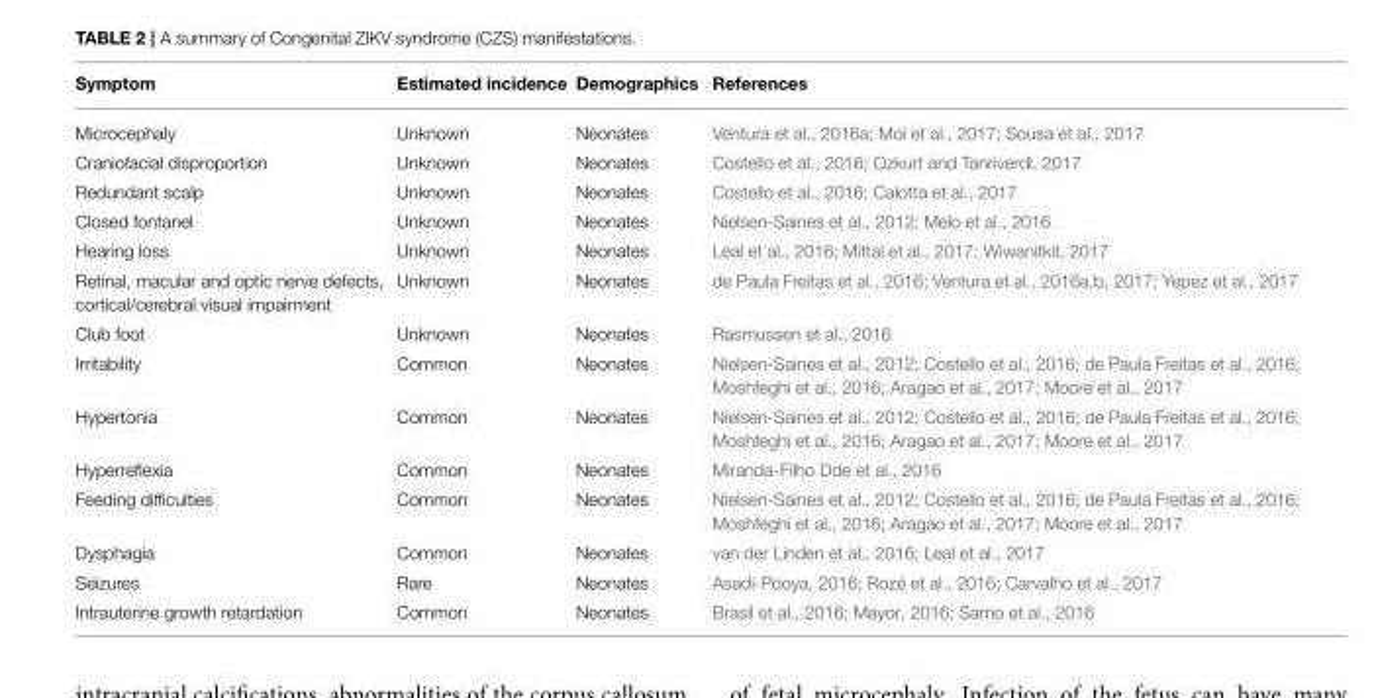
<table><thead><tr><td>Symptom</td><td>Estimated incidence</td><td>Demographics</td><td>References</td></tr></thead><tbody><tr><td>Microcephaly</td><td>Unknown</td><td>Neonates</td><td>Ventura et al., 2016a; Moi et al., 2017; Sousa et al., 2017</td></tr><tr><td>Craniofacial disproportion</td><td>Unknown</td><td>Neonates</td><td>Costello et al., 2016; Ozkurt and Tanriverdi, 2017</td></tr><tr><td>Redundant scalp</td><td>Unknown</td><td>Neonates</td><td>Costello et al., 2016; Calotta et al., 2017</td></tr><tr><td>Closed fontanel</td><td>Unknown</td><td>Neonates</td><td>Nielsen-Saines et al., 2012; Melo et al., 2016</td></tr><tr><td>Hearing loss</td><td>Unknown</td><td>Neonates</td><td>Leal et al., 2016; Mittal et al., 2017; Wiwanitkit, 2017</td></tr><tr><td>Retinal, macular and optic nerve defects, cortical/cerebral visual impairment</td><td>Unknown</td><td>Neonates</td><td>de Paula Freitas et al., 2016; Ventura et al., 2016a,b, 2017; Yepez et al., 2017</td></tr><tr><td>Club foot</td><td>Unknown</td><td>Neonates</td><td>Rasmussen et al., 2016</td></tr><tr><td>Irritability</td><td>Common</td><td>Neonates</td><td>Nielsen-Saines et al., 2012; Costello et al., 2016; de Paula Freitas et al., 2016; Moshfeghi et al., 2016; Aragao et al., 2017; Moore et al., 2017</td></tr><tr><td>Hypertonia</td><td>Common</td><td>Neonates</td><td>Nielsen-Saines et al., 2012; Costello et al., 2016; de Paula Freitas et al., 2016; Moshfeghi et al., 2016; Aragao et al., 2017; Moore et al., 2017</td></tr><tr><td>Hyperreflexia</td><td>Common</td><td>Neonates</td><td>Miranda-Filho Dde et al., 2016</td></tr><tr><td>Feeding difficulties</td><td>Common</td><td>Neonates</td><td>Nielsen-Saines et al., 2012; Costello et al., 2016; de Paula Freitas et al., 2016; Moshfeghi et al., 2016; Aragao et al., 2017; Moore et al., 2017</td></tr><tr><td>Dysphagia</td><td>Common</td><td>Neonates</td><td>van der Linden et al., 2016; Leal et al., 2017</td></tr><tr><td>Seizures</td><td>Rare</td><td>Neonates</td><td>Asadi-Pooya, 2016; Rozé et al., 2016; Carvalho et al., 2017</td></tr><tr><td>Intrauterine growth retardation</td><td>Common</td><td>Neonates</td><td>Brasil et al., 2016; Mayor, 2016; Sarno et al., 2016</td></tr></tbody></table>